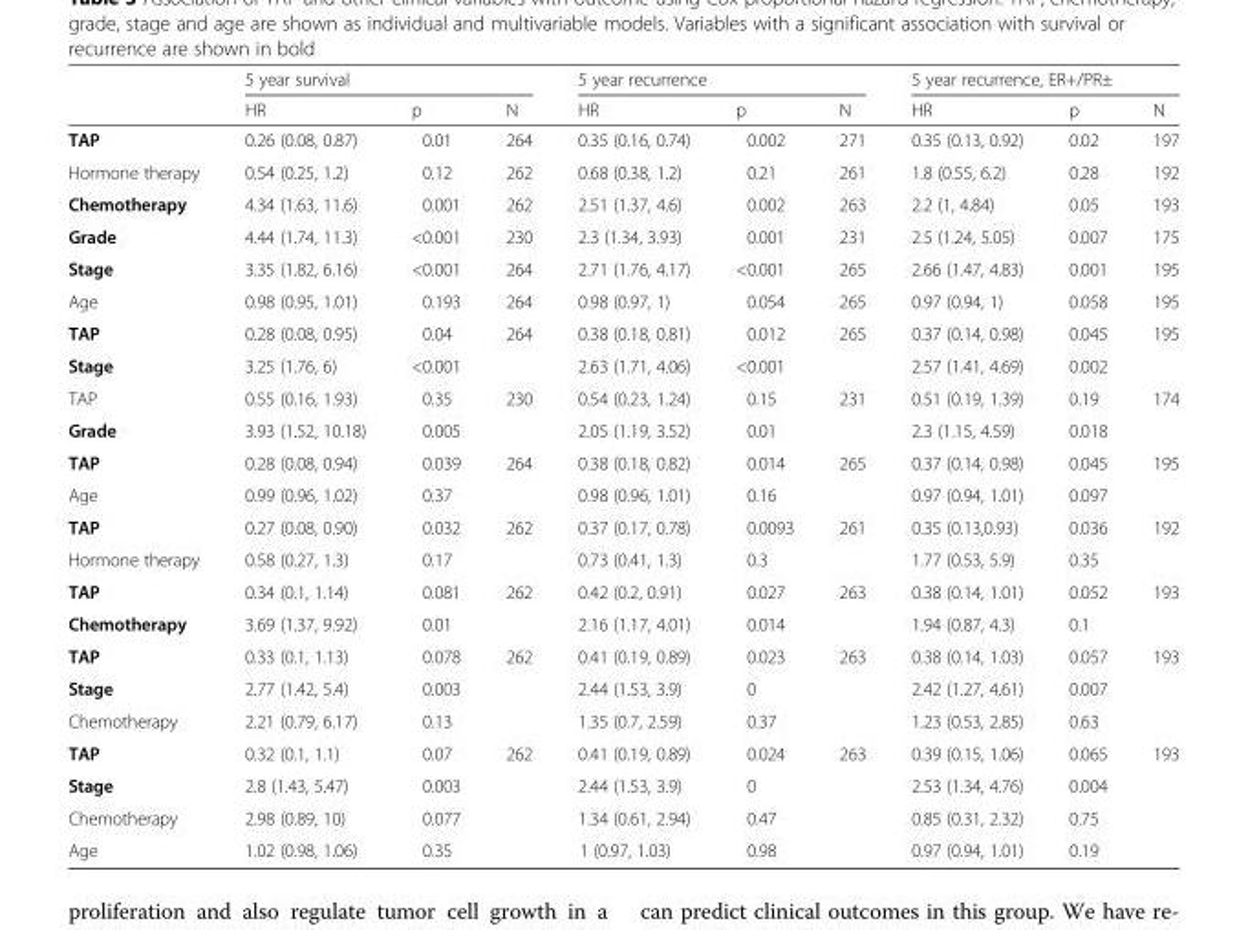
<table><thead><tr><td rowspan="2"></td><td colspan="3">5 year survival</td><td colspan="3">5 year recurrence</td><td colspan="3">5 year recurrence, ER+/PR±</td></tr><tr><td>HR</td><td>p</td><td>N</td><td>HR</td><td>p</td><td>N</td><td>HR</td><td>p</td><td>N</td></tr></thead><tbody><tr><td>TAP</td><td>0.26 (0.08, 0.87)</td><td>0.01</td><td>264</td><td>0.35 (0.16, 0.74)</td><td>0.002</td><td>271</td><td>0.35 (0.13, 0.92)</td><td>0.02</td><td>197</td></tr><tr><td>Hormone therapy</td><td>0.54 (0.25, 1.2)</td><td>0.12</td><td>262</td><td>0.68 (0.38, 1.2)</td><td>0.21</td><td>261</td><td>1.8 (0.55, 6.2)</td><td>0.28</td><td>192</td></tr><tr><td>Chemotherapy</td><td>4.34 (1.63, 11.6)</td><td>0.001</td><td>262</td><td>2.51 (1.37, 4.6)</td><td>0.002</td><td>263</td><td>2.2 (1, 4.84)</td><td>0.05</td><td>193</td></tr><tr><td>Grade</td><td>4.44 (1.74, 11.3)</td><td>&lt;0.001</td><td>230</td><td>2.3 (1.34, 3.93)</td><td>0.001</td><td>231</td><td>2.5 (1.24, 5.05)</td><td>0.007</td><td>175</td></tr><tr><td>Stage</td><td>3.35 (1.82, 6.16)</td><td>&lt;0.001</td><td>264</td><td>2.71 (1.76, 4.17)</td><td>&lt;0.001</td><td>265</td><td>2.66 (1.47, 4.83)</td><td>0.001</td><td>195</td></tr><tr><td>Age</td><td>0.98 (0.95, 1.01)</td><td>0.193</td><td>264</td><td>0.98 (0.97, 1)</td><td>0.054</td><td>265</td><td>0.97 (0.94, 1)</td><td>0.058</td><td>195</td></tr><tr><td>TAP</td><td>0.28 (0.08, 0.95)</td><td>0.04</td><td rowspan="2">264</td><td>0.38 (0.18, 0.81)</td><td>0.012</td><td rowspan="2">265</td><td>0.37 (0.14, 0.98)</td><td>0.045</td><td rowspan="2">195</td></tr><tr><td>Stage</td><td>3.25 (1.76, 6)</td><td>&lt;0.001</td><td>2.63 (1.71, 4.06)</td><td>&lt;0.001</td><td>2.57 (1.41, 4.69)</td><td>0.002</td></tr><tr><td>TAP</td><td>0.55 (0.16, 1.93)</td><td>0.35</td><td rowspan="2">230</td><td>0.54 (0.23, 1.24)</td><td>0.15</td><td rowspan="2">231</td><td>0.51 (0.19, 1.39)</td><td>0.19</td><td rowspan="2">174</td></tr><tr><td>Grade</td><td>3.93 (1.52, 10.18)</td><td>0.005</td><td>2.05 (1.19, 3.52)</td><td>0.01</td><td>2.3 (1.15, 4.59)</td><td>0.018</td></tr><tr><td>TAP</td><td>0.28 (0.08, 0.94)</td><td>0.039</td><td rowspan="2">264</td><td>0.38 (0.18, 0.82)</td><td>0.014</td><td rowspan="2">265</td><td>0.37 (0.14, 0.98)</td><td>0.045</td><td rowspan="2">195</td></tr><tr><td>Age</td><td>0.99 (0.96, 1.02)</td><td>0.37</td><td>0.98 (0.96, 1.01)</td><td>0.16</td><td>0.97 (0.94, 1.01)</td><td>0.097</td></tr><tr><td>TAP</td><td>0.27 (0.08, 0.90)</td><td>0.032</td><td rowspan="2">262</td><td>0.37 (0.17, 0.78)</td><td>0.0093</td><td rowspan="2">261</td><td>0.35 (0.13,0.93)</td><td>0.036</td><td rowspan="2">192</td></tr><tr><td>Hormone therapy</td><td>0.58 (0.27, 1.3)</td><td>0.17</td><td>0.73 (0.41, 1.3)</td><td>0.3</td><td>1.77 (0.53, 5.9)</td><td>0.35</td></tr><tr><td>TAP</td><td>0.34 (0.1, 1.14)</td><td>0.081</td><td rowspan="2">262</td><td>0.42 (0.2, 0.91)</td><td>0.027</td><td rowspan="2">263</td><td>0.38 (0.14, 1.01)</td><td>0.052</td><td rowspan="2">193</td></tr><tr><td>Chemotherapy</td><td>3.69 (1.37, 9.92)</td><td>0.01</td><td>2.16 (1.17, 4.01)</td><td>0.014</td><td>1.94 (0.87, 4.3)</td><td>0.1</td></tr><tr><td>TAP</td><td>0.33 (0.1, 1.13)</td><td>0.078</td><td rowspan="3">262</td><td>0.41 (0.19, 0.89)</td><td>0.023</td><td rowspan="3">263</td><td>0.38 (0.14, 1.03)</td><td>0.057</td><td rowspan="3">193</td></tr><tr><td>Stage</td><td>2.77 (1.42, 5.4)</td><td>0.003</td><td>2.44 (1.53, 3.9)</td><td>0</td><td>2.42 (1.27, 4.61)</td><td>0.007</td></tr><tr><td>Chemotherapy</td><td>2.21 (0.79, 6.17)</td><td>0.13</td><td>1.35 (0.7, 2.59)</td><td>0.37</td><td>1.23 (0.53, 2.85)</td><td>0.63</td></tr><tr><td>TAP</td><td>0.32 (0.1, 1.1)</td><td>0.07</td><td rowspan="4">262</td><td>0.41 (0.19, 0.89)</td><td>0.024</td><td rowspan="4">263</td><td>0.39 (0.15, 1.06)</td><td>0.065</td><td rowspan="4">193</td></tr><tr><td>Stage</td><td>2.8 (1.43, 5.47)</td><td>0.003</td><td>2.44 (1.53, 3.9)</td><td>0</td><td>2.53 (1.34, 4.76)</td><td>0.004</td></tr><tr><td>Chemotherapy</td><td>2.98 (0.89, 10)</td><td>0.077</td><td>1.34 (0.61, 2.94)</td><td>0.47</td><td>0.85 (0.31, 2.32)</td><td>0.75</td></tr><tr><td>Age</td><td>1.02 (0.98, 1.06)</td><td>0.35</td><td>1 (0.97, 1.03)</td><td>0.98</td><td>0.97 (0.94, 1.01)</td><td>0.19</td></tr></tbody></table>